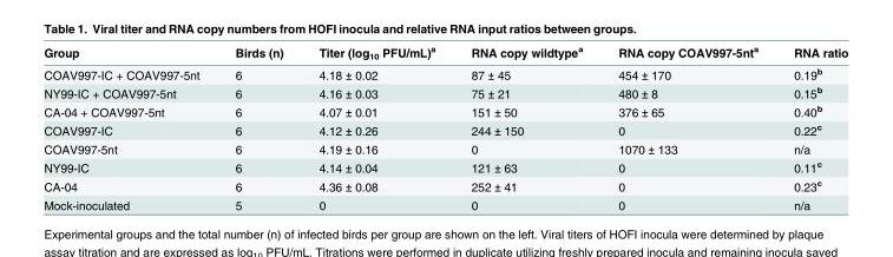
<table><thead><tr><td>Group</td><td>Birds (n)</td><td>Titer (log<sub>10</sub> PFU/mL)<sup>a</sup></td><td>RNA copy wildtype<sup>a</sup></td><td>RNA copy COAV997-5nt<sup>a</sup></td><td>RNA ratio</td></tr></thead><tbody><tr><td>COAV997-IC + COAV997-5nt</td><td>6</td><td>4.18 ± 0.02</td><td>87 ± 45</td><td>454 ± 170</td><td>0.19<sup>b</sup></td></tr><tr><td>NY99-IC + COAV997-5nt</td><td>6</td><td>4.16 ± 0.03</td><td>75 ± 21</td><td>480 ± 8</td><td>0.15<sup>b</sup></td></tr><tr><td>CA-04 + COAV997-5nt</td><td>6</td><td>4.07 ± 0.01</td><td>151 ± 50</td><td>376 ± 65</td><td>0.40<sup>b</sup></td></tr><tr><td>COAV997-IC</td><td>6</td><td>4.12 ± 0.26</td><td>244 ± 150</td><td>0</td><td>0.22<sup>c</sup></td></tr><tr><td>COAV997-5nt</td><td>6</td><td>4.19 ± 0.16</td><td>0</td><td>1070 ± 133</td><td>n/a</td></tr><tr><td>NY99-IC</td><td>6</td><td>4.14 ± 0.04</td><td>121 ± 63</td><td>0</td><td>0.11<sup>c</sup></td></tr><tr><td>CA-04</td><td>6</td><td>4.36 ± 0.08</td><td>252 ± 41</td><td>0</td><td>0.23<sup>c</sup></td></tr><tr><td>Mock-inoculated</td><td>5</td><td>0</td><td>0</td><td>0</td><td>n/a</td></tr></tbody></table>